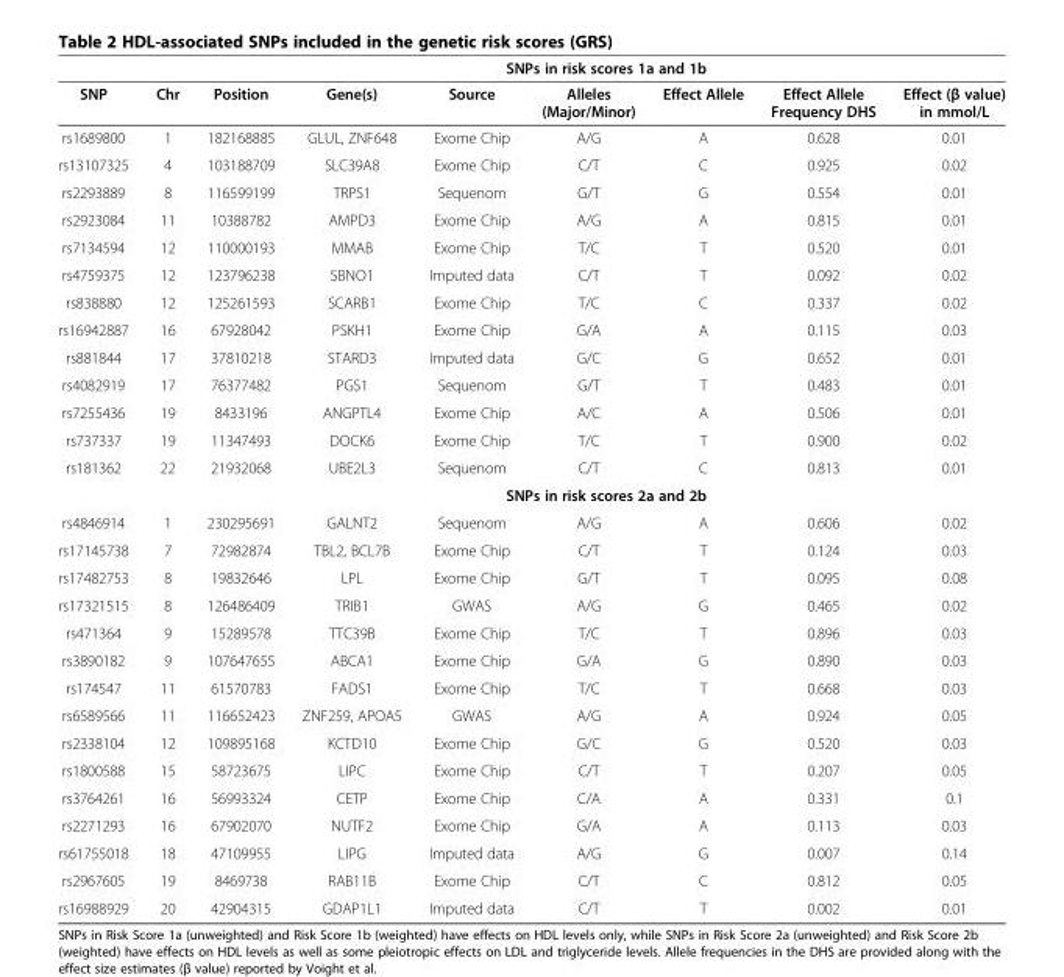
<table><thead><tr><td rowspan="2">SNP</td><td rowspan="2">Chr</td><td colspan="7">SNPs in risk scores 1a and 1b</td></tr><tr><td>Position</td><td>Gene(s)</td><td>Source</td><td>Alleles (Major/Minor)</td><td>Effect Allele</td><td>Effect Allele Frequency DHS</td><td>Effect (β value) in mmol/L</td></tr></thead><tbody><tr><td>rs1689800</td><td>1</td><td>182168885</td><td>GLUL, ZNF648</td><td>Exome Chip</td><td>A/G</td><td>A</td><td>0.628</td><td>0.01</td></tr><tr><td>rs13107325</td><td>4</td><td>103188709</td><td>SLC39A8</td><td>Exome Chip</td><td>C/T</td><td>C</td><td>0.925</td><td>0.02</td></tr><tr><td>rs2293889</td><td>8</td><td>116599199</td><td>TRPS1</td><td>Sequenom</td><td>G/T</td><td>G</td><td>0.554</td><td>0.01</td></tr><tr><td>rs2923084</td><td>11</td><td>10388782</td><td>AMPD3</td><td>Exome Chip</td><td>A/G</td><td>A</td><td>0.815</td><td>0.01</td></tr><tr><td>rs7134594</td><td>12</td><td>110000193</td><td>MMAB</td><td>Exome Chip</td><td>T/C</td><td>T</td><td>0.520</td><td>0.01</td></tr><tr><td>rs4759375</td><td>12</td><td>123796238</td><td>SBNO1</td><td>Imputed data</td><td>C/T</td><td>T</td><td>0.092</td><td>0.02</td></tr><tr><td>rs838880</td><td>12</td><td>125261593</td><td>SCARB1</td><td>Exome Chip</td><td>T/C</td><td>C</td><td>0.337</td><td>0.02</td></tr><tr><td>rs16942887</td><td>16</td><td>67928042</td><td>PSKH1</td><td>Exome Chip</td><td>G/A</td><td>A</td><td>0.115</td><td>0.03</td></tr><tr><td>rs881844</td><td>17</td><td>37810218</td><td>STARD3</td><td>Imputed data</td><td>G/C</td><td>G</td><td>0.652</td><td>0.01</td></tr><tr><td>rs4082919</td><td>17</td><td>76377482</td><td>PGS1</td><td>Sequenom</td><td>G/T</td><td>T</td><td>0.483</td><td>0.01</td></tr><tr><td>rs7255436</td><td>19</td><td>8433196</td><td>ANGPTL4</td><td>Exome Chip</td><td>A/C</td><td>A</td><td>0.506</td><td>0.01</td></tr><tr><td>rs737337</td><td>19</td><td>11347493</td><td>DOCK6</td><td>Exome Chip</td><td>T/C</td><td>T</td><td>0.900</td><td>0.02</td></tr><tr><td>rs181362</td><td>22</td><td>21932068</td><td>UBE2L3</td><td>Sequenom</td><td>C/T</td><td>C</td><td>0.813</td><td>0.01</td></tr><tr><td colspan="2"></td><td colspan="7">SNPs in risk scores 2a and 2b</td></tr><tr><td>rs4846914</td><td>1</td><td>230295691</td><td>GALNT2</td><td>Sequenom</td><td>A/G</td><td>A</td><td>0.606</td><td>0.02</td></tr><tr><td>rs17145738</td><td>7</td><td>72982874</td><td>TBL2, BCL7B</td><td>Exome Chip</td><td>C/T</td><td>T</td><td>0.124</td><td>0.03</td></tr><tr><td>rs17482753</td><td>8</td><td>19832646</td><td>LPL</td><td>Exome Chip</td><td>G/T</td><td>T</td><td>0.095</td><td>0.08</td></tr><tr><td>rs17321515</td><td>8</td><td>126486409</td><td>TRIB1</td><td>GWAS</td><td>A/G</td><td>G</td><td>0.465</td><td>0.02</td></tr><tr><td>rs471364</td><td>9</td><td>15289578</td><td>TTC39B</td><td>Exome Chip</td><td>T/C</td><td>T</td><td>0.896</td><td>0.03</td></tr><tr><td>rs3890182</td><td>9</td><td>107647655</td><td>ABCA1</td><td>Exome Chip</td><td>G/A</td><td>G</td><td>0.890</td><td>0.03</td></tr><tr><td>rs174547</td><td>11</td><td>61570783</td><td>FADS1</td><td>Exome Chip</td><td>T/C</td><td>T</td><td>0.668</td><td>0.03</td></tr><tr><td>rs6589566</td><td>11</td><td>116652423</td><td>ZNF259, APOA5</td><td>GWAS</td><td>A/G</td><td>A</td><td>0.924</td><td>0.05</td></tr><tr><td>rs2338104</td><td>12</td><td>109895168</td><td>KCTD10</td><td>Exome Chip</td><td>G/C</td><td>G</td><td>0.520</td><td>0.03</td></tr><tr><td>rs1800588</td><td>15</td><td>58723675</td><td>LIPC</td><td>Exome Chip</td><td>C/T</td><td>T</td><td>0.207</td><td>0.05</td></tr><tr><td>rs3764261</td><td>16</td><td>56993324</td><td>CETP</td><td>Exome Chip</td><td>C/A</td><td>A</td><td>0.331</td><td>0.1</td></tr><tr><td>rs2271293</td><td>16</td><td>67902070</td><td>NUTF2</td><td>Exome Chip</td><td>G/A</td><td>A</td><td>0.113</td><td>0.03</td></tr><tr><td>rs61755018</td><td>18</td><td>47109955</td><td>LIPG</td><td>Imputed data</td><td>A/G</td><td>G</td><td>0.007</td><td>0.14</td></tr><tr><td>rs2967605</td><td>19</td><td>8469738</td><td>RAB11B</td><td>Exome Chip</td><td>C/T</td><td>C</td><td>0.812</td><td>0.05</td></tr><tr><td>rs16988929</td><td>20</td><td>42904315</td><td>GDAP1L1</td><td>Imputed data</td><td>C/T</td><td>T</td><td>0.002</td><td>0.01</td></tr></tbody></table>